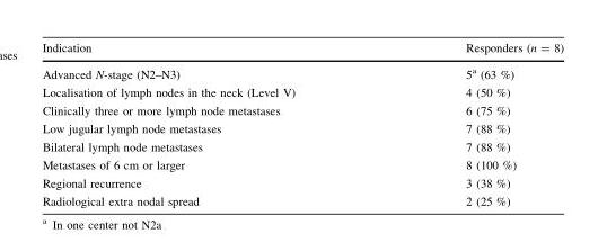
<table><thead><tr><td>Indication</td><td>Responders (n = 8)</td></tr></thead><tbody><tr><td>Advanced N-stage (N2–N3)</td><td>5<sup>a</sup> (63 %)</td></tr><tr><td>Localisation of lymph nodes in the neck (Level V)</td><td>4 (50 %)</td></tr><tr><td>Clinically three or more lymph node metastases</td><td>6 (75 %)</td></tr><tr><td>Low jugular lymph node metastases</td><td>7 (88 %)</td></tr><tr><td>Bilateral lymph node metastases</td><td>7 (88 %)</td></tr><tr><td>Metastases of 6 cm or larger</td><td>8 (100 %)</td></tr><tr><td>Regional recurrence</td><td>3 (38 %)</td></tr><tr><td>Radiological extra nodal spread</td><td>2 (25 %)</td></tr></tbody></table>